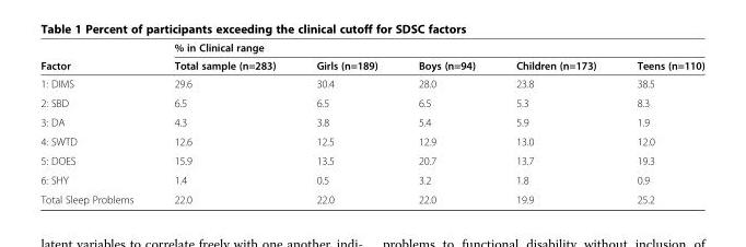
<table><thead><tr><td rowspan="2">Factor</td><td colspan="5">% in Clinical range</td></tr><tr><td>Total sample (n=283)</td><td>Girls (n=189)</td><td>Boys (n=94)</td><td>Children (n=173)</td><td>Teens (n=110)</td></tr></thead><tbody><tr><td>1: DIMS</td><td>29.6</td><td>30.4</td><td>28.0</td><td>23.8</td><td>38.5</td></tr><tr><td>2: SBD</td><td>6.5</td><td>6.5</td><td>6.5</td><td>5.3</td><td>8.3</td></tr><tr><td>3: DA</td><td>4.3</td><td>3.8</td><td>5.4</td><td>5.9</td><td>1.9</td></tr><tr><td>4: SWTD</td><td>12.6</td><td>12.5</td><td>12.9</td><td>13.0</td><td>12.0</td></tr><tr><td>5: DOES</td><td>15.9</td><td>13.5</td><td>20.7</td><td>13.7</td><td>19.3</td></tr><tr><td>6: SHY</td><td>1.4</td><td>0.5</td><td>3.2</td><td>1.8</td><td>0.9</td></tr><tr><td>Total Sleep Problems</td><td>22.0</td><td>22.0</td><td>22.0</td><td>19.9</td><td>25.2</td></tr></tbody></table>